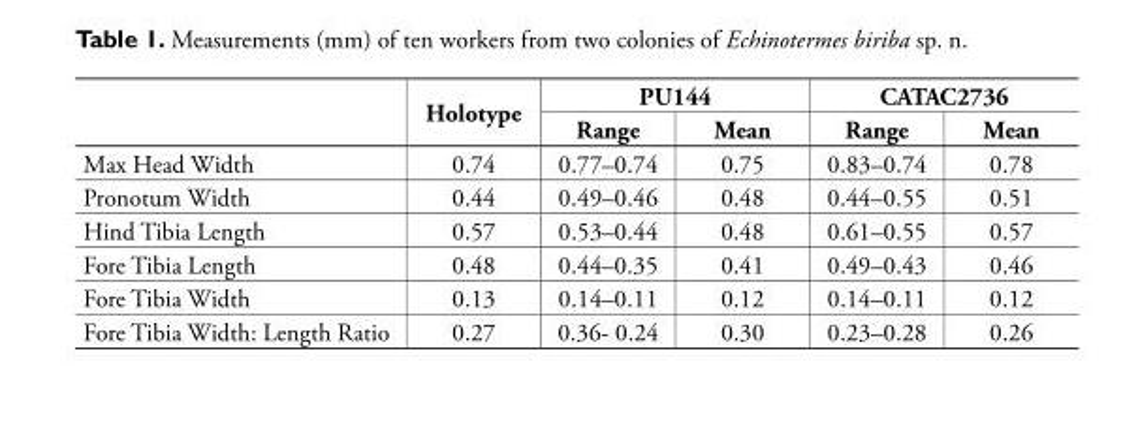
<table><thead><tr><td rowspan="2"></td><td rowspan="2">Holotype</td><td colspan="2">PU144</td><td colspan="2">CATAC2736</td></tr><tr><td>Range</td><td>Mean</td><td>Range</td><td>Mean</td></tr></thead><tbody><tr><td>Max Head Width</td><td>0.74</td><td>0.77–0.74</td><td>0.75</td><td>0.83–0.74</td><td>0.78</td></tr><tr><td>Pronotum Width</td><td>0.44</td><td>0.49–0.46</td><td>0.48</td><td>0.44–0.55</td><td>0.51</td></tr><tr><td>Hind Tibia Length</td><td>0.57</td><td>0.53–0.44</td><td>0.48</td><td>0.61–0.55</td><td>0.57</td></tr><tr><td>Fore Tibia Length</td><td>0.48</td><td>0.44–0.35</td><td>0.41</td><td>0.49–0.43</td><td>0.46</td></tr><tr><td>Fore Tibia Width</td><td>0.13</td><td>0.14–0.11</td><td>0.12</td><td>0.14–0.11</td><td>0.12</td></tr><tr><td>Fore Tibia Width: Length Ratio</td><td>0.27</td><td>0.36- 0.24</td><td>0.30</td><td>0.23–0.28</td><td>0.26</td></tr></tbody></table>